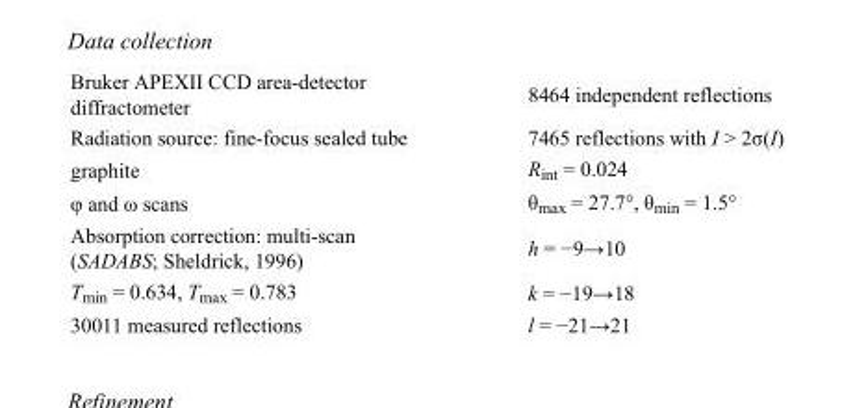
<table><tbody><tr><td>Bruker APEXII CCD area-detector diffractometer</td><td>8464 independent reflections</td></tr><tr><td>Radiation source: fine-focus sealed tube</td><td>7465 reflections with I &gt; 2σ(I)</td></tr><tr><td>graphite</td><td>R<sub>int</sub> = 0.024</td></tr><tr><td>φ and ω scans</td><td>θ<sub>max</sub> = 27.7°, θ<sub>min</sub> = 1.5°</td></tr><tr><td>Absorption correction: multi-scan (SADABS; Sheldrick, 1996)</td><td>h = −9→10</td></tr><tr><td>T<sub>min</sub> = 0.634, T<sub>max</sub> = 0.783</td><td>k = −19→18</td></tr><tr><td>30011 measured reflections</td><td>l = −21→21</td></tr></tbody></table>